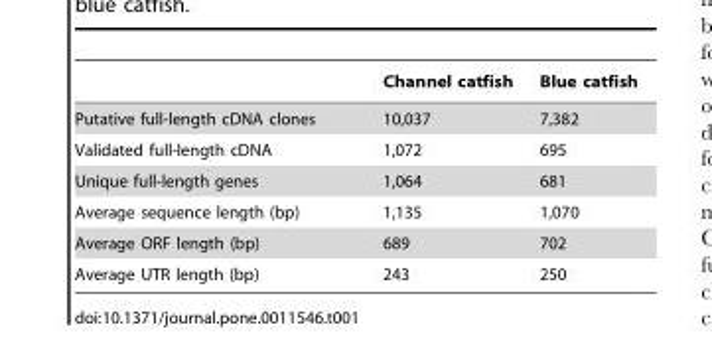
<table><thead><tr><td></td><td>Channel catfish</td><td>Blue catfish</td></tr></thead><tbody><tr><td>Putative full-length cDNA clones</td><td>10,037</td><td>7,382</td></tr><tr><td>Validated full-length cDNA</td><td>1,072</td><td>695</td></tr><tr><td>Unique full-length genes</td><td>1,064</td><td>681</td></tr><tr><td>Average sequence length (bp)</td><td>1,135</td><td>1,070</td></tr><tr><td>Average ORF length (bp)</td><td>689</td><td>702</td></tr><tr><td>Average UTR length (bp)</td><td>243</td><td>250</td></tr></tbody></table>